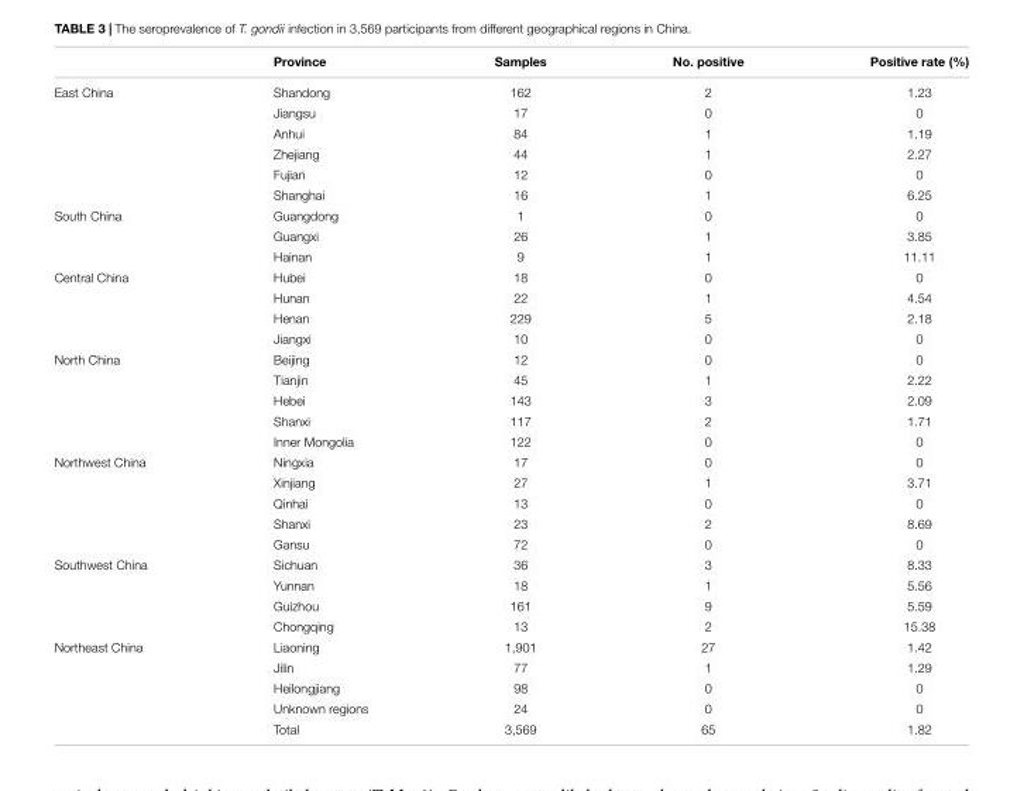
<table><thead><tr><td></td><td>Province</td><td>Samples</td><td>No. positive</td><td>Positive rate (%)</td></tr></thead><tbody><tr><td rowspan="6">East China</td><td>Shandong</td><td>162</td><td>2</td><td>1.23</td></tr><tr><td>Jiangsu</td><td>17</td><td>0</td><td>0</td></tr><tr><td>Anhui</td><td>84</td><td>1</td><td>1.19</td></tr><tr><td>Zhejiang</td><td>44</td><td>1</td><td>2.27</td></tr><tr><td>Fujian</td><td>12</td><td>0</td><td>0</td></tr><tr><td>Shanghai</td><td>16</td><td>1</td><td>6.25</td></tr><tr><td rowspan="3">South China</td><td>Guangdong</td><td>1</td><td>0</td><td>0</td></tr><tr><td>Guangxi</td><td>26</td><td>1</td><td>3.85</td></tr><tr><td>Hainan</td><td>9</td><td>1</td><td>11.11</td></tr><tr><td rowspan="4">Central China</td><td>Hubei</td><td>18</td><td>0</td><td>0</td></tr><tr><td>Hunan</td><td>22</td><td>1</td><td>4.54</td></tr><tr><td>Henan</td><td>229</td><td>5</td><td>2.18</td></tr><tr><td>Jiangxi</td><td>10</td><td>0</td><td>0</td></tr><tr><td rowspan="5">North China</td><td>Beijing</td><td>12</td><td>0</td><td>0</td></tr><tr><td>Tianjin</td><td>45</td><td>1</td><td>2.22</td></tr><tr><td>Hebei</td><td>143</td><td>3</td><td>2.09</td></tr><tr><td>Shanxi</td><td>117</td><td>2</td><td>1.71</td></tr><tr><td>Inner Mongolia</td><td>122</td><td>0</td><td>0</td></tr><tr><td rowspan="5">Northwest China</td><td>Ningxia</td><td>17</td><td>0</td><td>0</td></tr><tr><td>Xinjiang</td><td>27</td><td>1</td><td>3.71</td></tr><tr><td>Qinhai</td><td>13</td><td>0</td><td>0</td></tr><tr><td>Shanxi</td><td>23</td><td>2</td><td>8.69</td></tr><tr><td>Gansu</td><td>72</td><td>0</td><td>0</td></tr><tr><td rowspan="4">Southwest China</td><td>Sichuan</td><td>36</td><td>3</td><td>8.33</td></tr><tr><td>Yunnan</td><td>18</td><td>1</td><td>5.56</td></tr><tr><td>Guizhou</td><td>161</td><td>9</td><td>5.59</td></tr><tr><td>Chongqing</td><td>13</td><td>2</td><td>15.38</td></tr><tr><td rowspan="5">Northeast China</td><td>Liaoning</td><td>1,901</td><td>27</td><td>1.42</td></tr><tr><td>Jilin</td><td>77</td><td>1</td><td>1.29</td></tr><tr><td>Heilongjiang</td><td>98</td><td>0</td><td>0</td></tr><tr><td>Unknown regions</td><td>24</td><td>0</td><td>0</td></tr><tr><td>Total</td><td>3,569</td><td>65</td><td>1.82</td></tr></tbody></table>